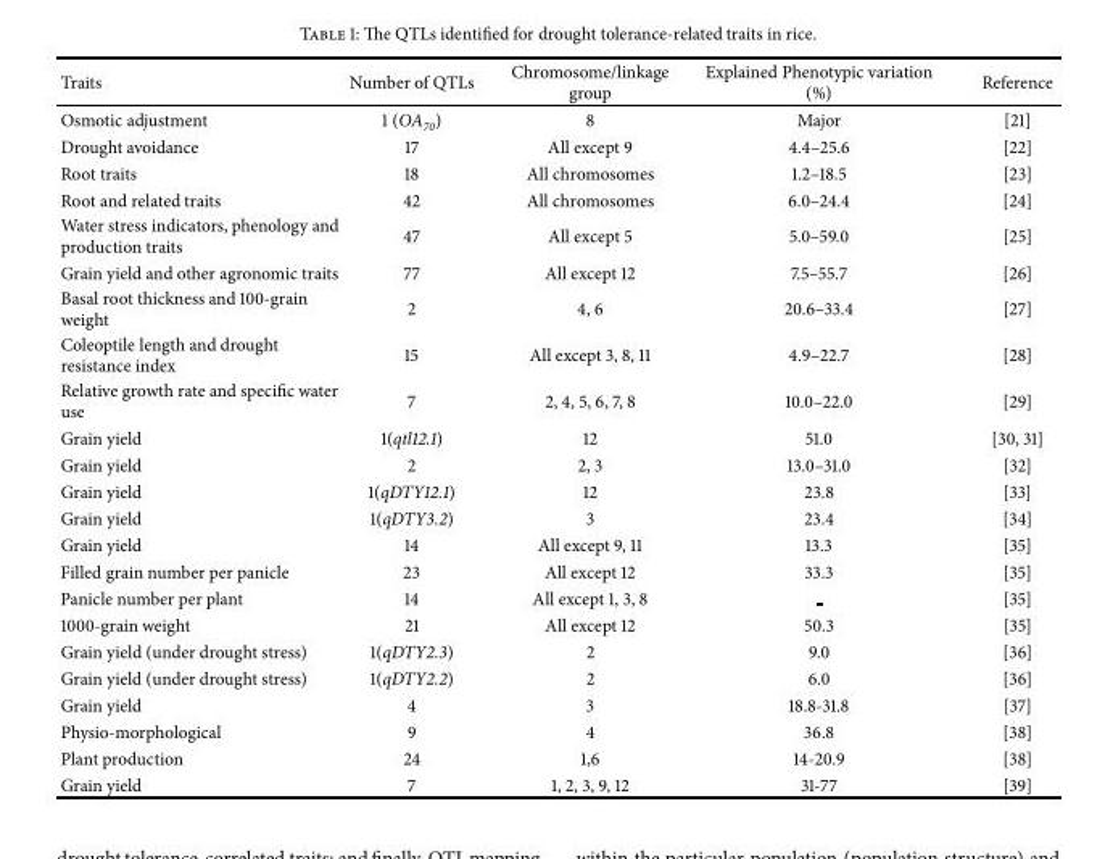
<table><thead><tr><td>Traits</td><td>Number of QTLs</td><td>Chromosome/linkage group</td><td>Explained Phenotypic variation (%)</td><td>Reference</td></tr></thead><tbody><tr><td>Osmotic adjustment</td><td>1 (OA<sub>70</sub>)</td><td>8</td><td>Major</td><td>[21]</td></tr><tr><td>Drought avoidance</td><td>17</td><td>All except 9</td><td>4.4–25.6</td><td>[22]</td></tr><tr><td>Root traits</td><td>18</td><td>All chromosomes</td><td>1.2–18.5</td><td>[23]</td></tr><tr><td>Root and related traits</td><td>42</td><td>All chromosomes</td><td>6.0–24.4</td><td>[24]</td></tr><tr><td>Water stress indicators, phenology and production traits</td><td>47</td><td>All except 5</td><td>5.0–59.0</td><td>[25]</td></tr><tr><td>Grain yield and other agronomic traits</td><td>77</td><td>All except 12</td><td>7.5–55.7</td><td>[26]</td></tr><tr><td>Basal root thickness and 100-grain weight</td><td>2</td><td>4, 6</td><td>20.6–33.4</td><td>[27]</td></tr><tr><td>Coleoptile length and drought resistance index</td><td>15</td><td>All except 3, 8, 11</td><td>4.9–22.7</td><td>[28]</td></tr><tr><td>Relative growth rate and specific water use</td><td>7</td><td>2, 4, 5, 6, 7, 8</td><td>10.0–22.0</td><td>[29]</td></tr><tr><td>Grain yield</td><td>1(qtl12.1)</td><td>12</td><td>51.0</td><td>[30, 31]</td></tr><tr><td>Grain yield</td><td>2</td><td>2, 3</td><td>13.0–31.0</td><td>[32]</td></tr><tr><td>Grain yield</td><td>1(qDTY12.1)</td><td>12</td><td>23.8</td><td>[33]</td></tr><tr><td>Grain yield</td><td>1(qDTY3.2)</td><td>3</td><td>23.4</td><td>[34]</td></tr><tr><td>Grain yield</td><td>14</td><td>All except 9, 11</td><td>13.3</td><td>[35]</td></tr><tr><td>Filled grain number per panicle</td><td>23</td><td>All except 12</td><td>33.3</td><td>[35]</td></tr><tr><td>Panicle number per plant</td><td>14</td><td>All except 1, 3, 8</td><td></td><td>[35]</td></tr><tr><td>1000-grain weight</td><td>21</td><td>All except 12</td><td>50.3</td><td>[35]</td></tr><tr><td>Grain yield (under drought stress)</td><td>1(qDTY2.3)</td><td>2</td><td>9.0</td><td>[36]</td></tr><tr><td>Grain yield (under drought stress)</td><td>1(qDTY2.2)</td><td>2</td><td>6.0</td><td>[36]</td></tr><tr><td>Grain yield</td><td>4</td><td>3</td><td>18.8-31.8</td><td>[37]</td></tr><tr><td>Physio-morphological</td><td>9</td><td>4</td><td>36.8</td><td>[38]</td></tr><tr><td>Plant production</td><td>24</td><td>1,6</td><td>14-20.9</td><td>[38]</td></tr><tr><td>Grain yield</td><td>7</td><td>1, 2, 3, 9, 12</td><td>31-77</td><td>[39]</td></tr></tbody></table>